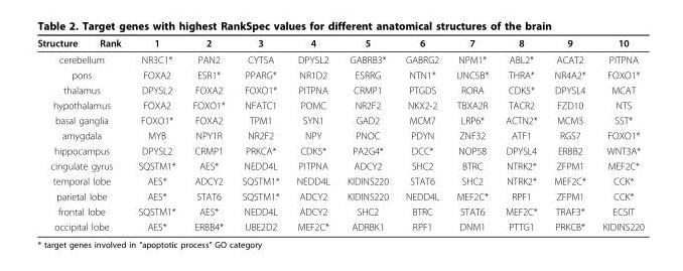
<table><thead><tr><td>Structure</td><td>Rank</td><td>1</td><td>2</td><td>3</td><td>4</td><td>5</td><td>6</td><td>7</td><td>8</td><td>9</td><td>10</td></tr></thead><tbody><tr><td colspan="2">cerebellum</td><td>NR3C1*</td><td>PAN2</td><td>CYTSA</td><td>DPYSL2</td><td>GABRB3*</td><td>GABRG2</td><td>NPM1*</td><td>ABL2*</td><td>ACAT2</td><td>PITPNA</td></tr><tr><td colspan="2">pons</td><td>FOXA2</td><td>ESR1*</td><td>PPARG*</td><td>NR1D2</td><td>ESRRG</td><td>NTN1*</td><td>UNC5B*</td><td>THRA*</td><td>NR4A2*</td><td>FOXO1*</td></tr><tr><td colspan="2">thalamus</td><td>DPYSL2</td><td>FOXA2</td><td>FOXO1*</td><td>PITPNA</td><td>CRMP1</td><td>PTGDS</td><td>RORA</td><td>CDK5*</td><td>DPYSL4</td><td>MCAT</td></tr><tr><td colspan="2">hypothalamus</td><td>FOXA2</td><td>FOXO1*</td><td>NFATC1</td><td>POMC</td><td>NR2F2</td><td>NKX2-2</td><td>TBXA2R</td><td>TACR2</td><td>FZD10</td><td>NTS</td></tr><tr><td colspan="2">basal ganglia</td><td>FOXO1*</td><td>FOXA2</td><td>TPM1</td><td>SYN1</td><td>GAD2</td><td>MCM7</td><td>LRP6*</td><td>ACTN2*</td><td>MCM3</td><td>SST*</td></tr><tr><td colspan="2">amygdala</td><td>MYB</td><td>NPY1R</td><td>NR2F2</td><td>NPY</td><td>PNOC</td><td>PDYN</td><td>ZNF32</td><td>ATF1</td><td>RGS7</td><td>FOXO1*</td></tr><tr><td colspan="2">hippocampus</td><td>DPYSL2</td><td>CRMP1</td><td>PRKCA*</td><td>CDK5*</td><td>PA2G4*</td><td>DCC*</td><td>NOP58</td><td>DPYSL4</td><td>ERBB2</td><td>WNT3A*</td></tr><tr><td colspan="2">cingulate gyrus</td><td>SQSTM1*</td><td>AES*</td><td>NEDD4L</td><td>PITPNA</td><td>ADCY2</td><td>SHC2</td><td>BTRC</td><td>NTRK2*</td><td>ZFPM1</td><td>MEF2C*</td></tr><tr><td colspan="2">temporal lobe</td><td>AES*</td><td>ADCY2</td><td>SQSTM1*</td><td>NEDD4L</td><td>KIDINS220</td><td>STAT6</td><td>SHC2</td><td>NTRK2*</td><td>MEF2C*</td><td>CCK*</td></tr><tr><td colspan="2">parietal lobe</td><td>AES*</td><td>STAT6</td><td>SQSTM1*</td><td>ADCY2</td><td>KIDINS220</td><td>NEDD4L</td><td>MEF2C*</td><td>RPF1</td><td>ZFPM1</td><td>CCK*</td></tr><tr><td colspan="2">frontal lobe</td><td>SQSTM1*</td><td>AES*</td><td>NEDD4L</td><td>ADCY2</td><td>SHC2</td><td>BTRC</td><td>STAT6</td><td>MEF2C*</td><td>TRAF3*</td><td>ECSIT</td></tr><tr><td colspan="2">occipital lobe</td><td>AES*</td><td>ERBB4*</td><td>UBE2D2</td><td>MEF2C*</td><td>ADRBK1</td><td>RPF1</td><td>DNM1</td><td>PTTG1</td><td>PRKCB*</td><td>KIDINS220</td></tr></tbody></table>